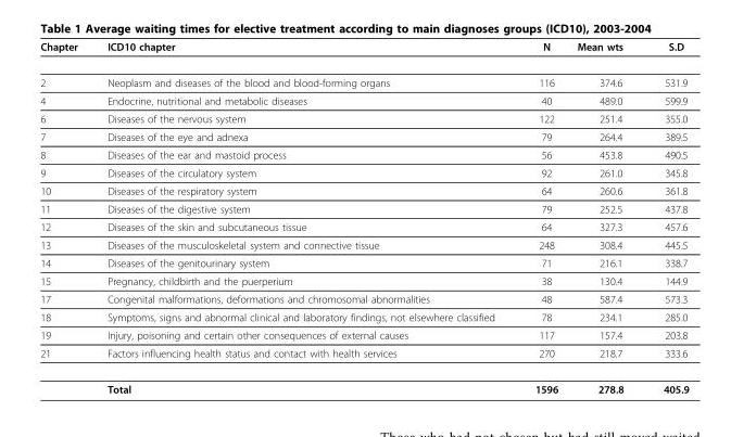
<table><thead><tr><td>Chapter</td><td>ICD10 chapter</td><td>N</td><td>Mean wts</td><td>S.D</td></tr></thead><tbody><tr><td>2</td><td>Neoplasm and diseases of the blood and blood-forming organs</td><td>116</td><td>374.6</td><td>531.9</td></tr><tr><td>4</td><td>Endocrine, nutritional and metabolic diseases</td><td>40</td><td>489.0</td><td>599.9</td></tr><tr><td>6</td><td>Diseases of the nervous system</td><td>122</td><td>251.4</td><td>355.0</td></tr><tr><td>7</td><td>Diseases of the eye and adnexa</td><td>79</td><td>264.4</td><td>389.5</td></tr><tr><td>8</td><td>Diseases of the ear and mastoid process</td><td>56</td><td>453.8</td><td>490.5</td></tr><tr><td>9</td><td>Diseases of the circulatory system</td><td>92</td><td>261.0</td><td>345.8</td></tr><tr><td>10</td><td>Diseases of the respiratory system</td><td>64</td><td>260.6</td><td>361.8</td></tr><tr><td>11</td><td>Diseases of the digestive system</td><td>79</td><td>252.5</td><td>437.8</td></tr><tr><td>12</td><td>Diseases of the skin and subcutaneous tissue</td><td>64</td><td>327.3</td><td>457.6</td></tr><tr><td>13</td><td>Diseases of the musculoskeletal system and connective tissue</td><td>248</td><td>308.4</td><td>445.5</td></tr><tr><td>14</td><td>Diseases of the genitourinary system</td><td>71</td><td>216.1</td><td>338.7</td></tr><tr><td>15</td><td>Pregnancy, childbirth and the puerperium</td><td>38</td><td>130.4</td><td>144.9</td></tr><tr><td>17</td><td>Congenital malformations, deformations and chromosomal abnormalities</td><td>48</td><td>587.4</td><td>573.3</td></tr><tr><td>18</td><td>Symptoms, signs and abnormal clinical and laboratory findings, not elsewhere classified</td><td>78</td><td>234.1</td><td>285.0</td></tr><tr><td>19</td><td>Injury, poisoning and certain other consequences of external causes</td><td>117</td><td>157.4</td><td>203.8</td></tr><tr><td rowspan="2">21</td><td>Factors influencing health status and contact with health services</td><td>270</td><td>218.7</td><td>333.6</td></tr><tr><td>Total</td><td>1596</td><td>278.8</td><td>405.9</td></tr></tbody></table>